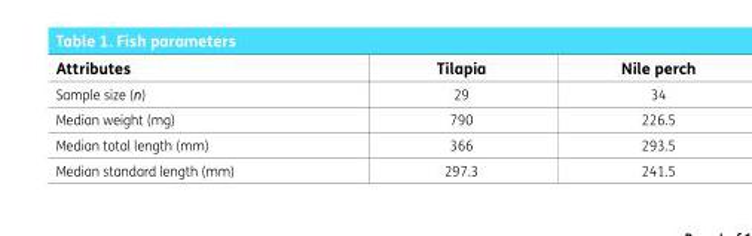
<table><thead><tr><td>Attributes</td><td>Tilapia</td><td>Nile perch</td></tr></thead><tbody><tr><td>Sample size (n)</td><td>29</td><td>34</td></tr><tr><td>Median weight (mg)</td><td>790</td><td>226.5</td></tr><tr><td>Median total length (mm)</td><td>366</td><td>293.5</td></tr><tr><td>Median standard length (mm)</td><td>297.3</td><td>241.5</td></tr></tbody></table>